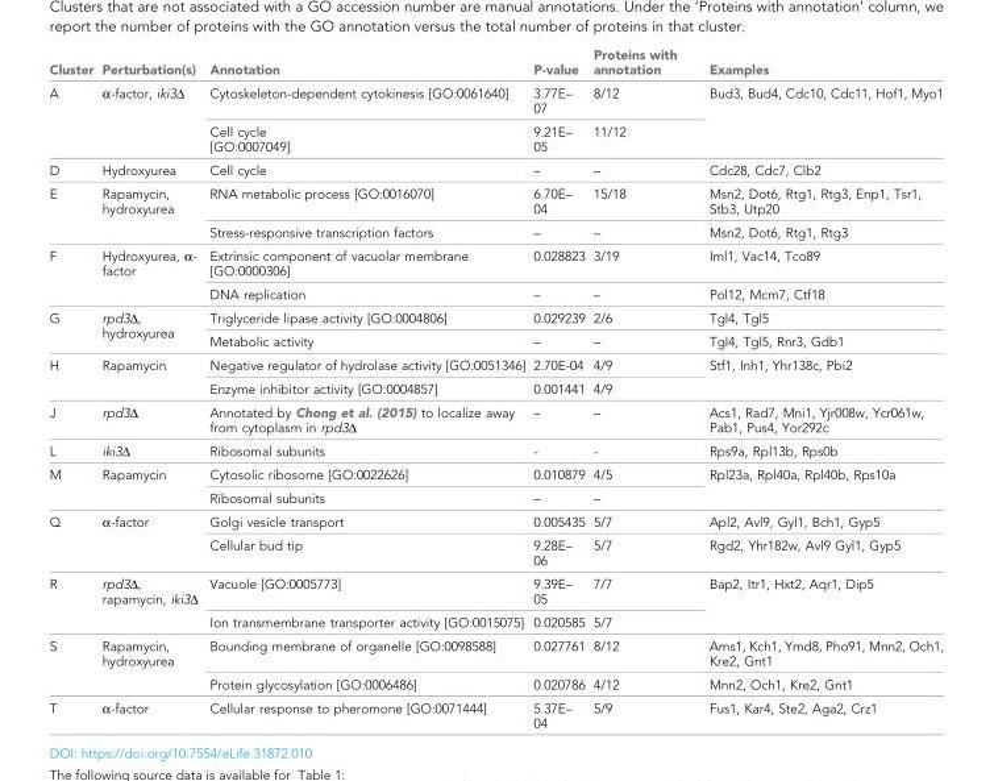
<table><thead><tr><td>Cluster</td><td>Perturbation(s)</td><td>Annotation</td><td>P-value</td><td>Proteins with annotation</td><td>Examples</td></tr></thead><tbody><tr><td rowspan="2">A</td><td rowspan="2">α-factor, iki3Δ</td><td>Cytoskeleton-dependent cytokinesis [GO:0061640]</td><td>3.77E– 07</td><td>8/12</td><td rowspan="2">Bud3, Bud4, Cdc10, Cdc11, Hof1, Myo1</td></tr><tr><td>Cell cycle [GO:0007049]</td><td>9.21E– 05</td><td>11/12</td></tr><tr><td>D</td><td>Hydroxyurea</td><td>Cell cycle</td><td>–</td><td>–</td><td>Cdc28, Cdc7, Clb2</td></tr><tr><td rowspan="2">E</td><td rowspan="2">Rapamycin, hydroxyurea</td><td>RNA metabolic process [GO:0016070]</td><td>6.70E– 04</td><td>15/18</td><td>Msn2, Dot6, Rtg1, Rtg3, Enp1, Tsr1, Stb3, Utp20</td></tr><tr><td>Stress-responsive transcription factors</td><td>–</td><td>–</td><td>Msn2, Dot6, Rtg1, Rtg3</td></tr><tr><td rowspan="2">F</td><td rowspan="2">Hydroxyurea, α- factor</td><td>Extrinsic component of vacuolar membrane [GO:0000306]</td><td>0.028823</td><td>3/19</td><td>Iml1, Vac14, Tco89</td></tr><tr><td>DNA replication</td><td>–</td><td>–</td><td>Pol12, Mcm7, Ctf18</td></tr><tr><td rowspan="2">G</td><td rowspan="2">rpd3Δ, hydroxyurea</td><td>Triglyceride lipase activity [GO:0004806]</td><td>0.029239</td><td>2/6</td><td>Tgl4, Tgl5</td></tr><tr><td>Metabolic activity</td><td>–</td><td>–</td><td>Tgl4, Tgl5, Rnr3, Gdb1</td></tr><tr><td rowspan="2">H</td><td rowspan="2">Rapamycin</td><td>Negative regulator of hydrolase activity [GO:0051346]</td><td>2.70E-04</td><td>4/9</td><td rowspan="2">Stf1, Inh1, Yhr138c, Pbi2</td></tr><tr><td>Enzyme inhibitor activity [GO:0004857]</td><td>0.001441</td><td>4/9</td></tr><tr><td>J</td><td>rpd3Δ</td><td>Annotated by Chong et al. (2015) to localize away from cytoplasm in rpd3Δ</td><td>–</td><td>–</td><td>Acs1, Rad7, Mni1, Yjr008w, Ycr061w, Pab1, Pus4, Yor292c</td></tr><tr><td>L</td><td>iki3Δ</td><td>Ribosomal subunits</td><td>-</td><td>-</td><td>Rps9a, Rpl13b, Rps0b</td></tr><tr><td rowspan="2">M</td><td rowspan="2">Rapamycin</td><td>Cytosolic ribosome [GO:0022626]</td><td>0.010879</td><td>4/5</td><td rowspan="2">Rpl23a, Rpl40a, Rpl40b, Rps10a</td></tr><tr><td>Ribosomal subunits</td><td>–</td><td>–</td></tr><tr><td rowspan="2">Q</td><td rowspan="2">α-factor</td><td>Golgi vesicle transport</td><td>0.005435</td><td>5/7</td><td>Apl2, Avl9, Gyl1, Bch1, Gyp5</td></tr><tr><td>Cellular bud tip</td><td>9.28E– 06</td><td>5/7</td><td>Rgd2, Yhr182w, Avl9 Gyl1, Gyp5</td></tr><tr><td rowspan="2">R</td><td rowspan="2">rpd3Δ, rapamycin, iki3Δ</td><td>Vacuole [GO:0005773]</td><td>9.39E– 05</td><td>7/7</td><td rowspan="2">Bap2, Itr1, Hxt2, Aqr1, Dip5</td></tr><tr><td>Ion transmembrane transporter activity [GO:0015075]</td><td>0.020585</td><td>5/7</td></tr><tr><td rowspan="2">S</td><td rowspan="2">Rapamycin, hydroxyurea</td><td>Bounding membrane of organelle [GO:0098588]</td><td>0.027761</td><td>8/12</td><td>Ams1, Kch1, Ymd8, Pho91, Mnn2, Och1, Kre2, Gnt1</td></tr><tr><td>Protein glycosylation [GO:0006486]</td><td>0.020786</td><td>4/12</td><td>Mnn2, Och1, Kre2, Gnt1</td></tr><tr><td>T</td><td>α-factor</td><td>Cellular response to pheromone [GO:0071444]</td><td>5.37E– 04</td><td>5/9</td><td>Fus1, Kar4, Ste2, Aga2, Crz1</td></tr></tbody></table>